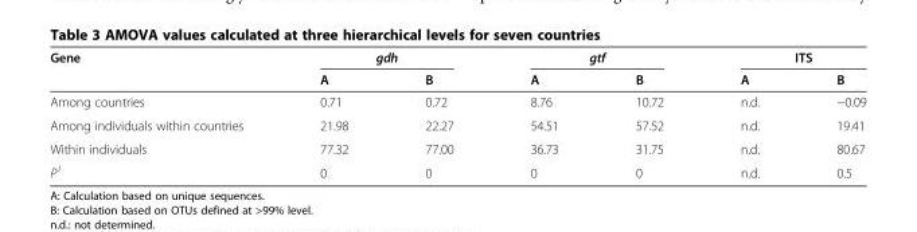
<table><thead><tr><td rowspan="2">Gene</td><td colspan="2">gdh</td><td colspan="2">gtf</td><td colspan="2">ITS</td></tr><tr><td>A</td><td>B</td><td>A</td><td>B</td><td>A</td><td>B</td></tr></thead><tbody><tr><td>Among countries</td><td>0.71</td><td>0.72</td><td>8.76</td><td>10.72</td><td>n.d.</td><td>−0.09</td></tr><tr><td>Among individuals within countries</td><td>21.98</td><td>22.27</td><td>54.51</td><td>57.52</td><td>n.d.</td><td>19.41</td></tr><tr><td>Within individuals</td><td>77.32</td><td>77.00</td><td>36.73</td><td>31.75</td><td>n.d.</td><td>80.67</td></tr><tr><td>P<sup>1</sup></td><td>0</td><td>0</td><td>0</td><td>0</td><td>n.d.</td><td>0.5</td></tr></tbody></table>